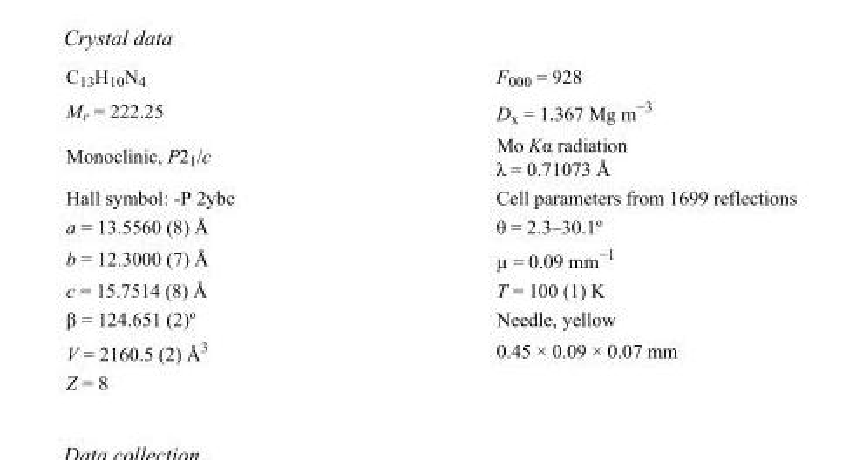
<table><tbody><tr><td>C<sub>13</sub>H<sub>10</sub>N<sub>4</sub></td><td>F<sub>000</sub> = 928</td></tr><tr><td>M<sub>r</sub> = 222.25</td><td>D<sub>x</sub> = 1.367 Mg m<sup>−3</sup></td></tr><tr><td>Monoclinic, P2<sub>1</sub>/c</td><td>Mo Kα radiation λ = 0.71073 Å</td></tr><tr><td>Hall symbol: -P 2ybc</td><td>Cell parameters from 1699 reflections</td></tr><tr><td>a = 13.5560 (8) Å</td><td>θ = 2.3–30.1º</td></tr><tr><td>b = 12.3000 (7) Å</td><td>µ = 0.09 mm<sup>−1</sup></td></tr><tr><td>c = 15.7514 (8) Å</td><td>T = 100 (1) K</td></tr><tr><td>β = 124.651 (2)º</td><td>Needle, yellow</td></tr><tr><td>V = 2160.5 (2) Å<sup>3</sup></td><td>0.45 × 0.09 × 0.07 mm</td></tr><tr><td>Z = 8</td><td></td></tr></tbody></table>